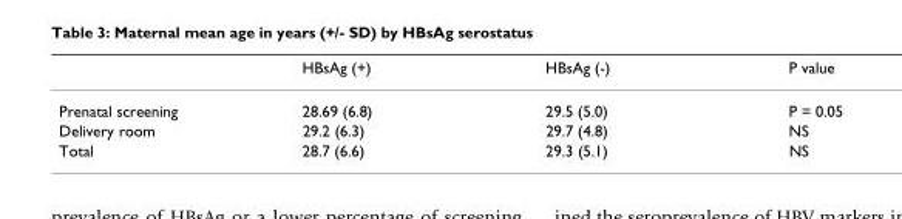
<table><thead><tr><td></td><td>HBsAg (+)</td><td>HBsAg (-)</td><td>P value</td></tr></thead><tbody><tr><td>Prenatal screening</td><td>28.69 (6.8)</td><td>29.5 (5.0)</td><td>P = 0.05</td></tr><tr><td>Delivery room</td><td>29.2 (6.3)</td><td>29.7 (4.8)</td><td>NS</td></tr><tr><td>Total</td><td>28.7 (6.6)</td><td>29.3 (5.1)</td><td>NS</td></tr></tbody></table>